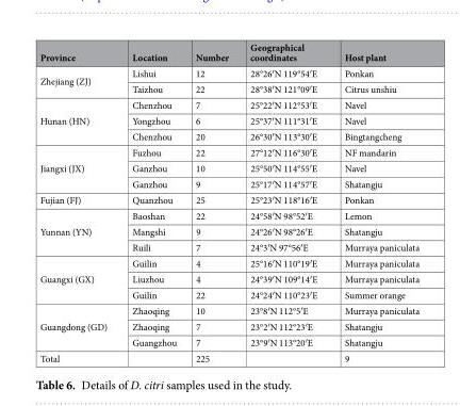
<table><thead><tr><td>Province</td><td>Location</td><td>Number</td><td>Geographical coordinates</td><td>Host plant</td></tr></thead><tbody><tr><td rowspan="2">Zhejiang (ZJ)</td><td>Lishui</td><td>12</td><td>28°26′N 119°54′E</td><td>Ponkan</td></tr><tr><td>Taizhou</td><td>22</td><td>28°38′N 121°09′E</td><td>Citrus unshiu</td></tr><tr><td rowspan="3">Hunan (HN)</td><td>Chenzhou</td><td>7</td><td>25°22′N 112°53′E</td><td>Navel</td></tr><tr><td>Yongzhou</td><td>6</td><td>25°37′N 111°31′E</td><td>Navel</td></tr><tr><td>Chenzhou</td><td>20</td><td>26°30′N 113°30′E</td><td>Bingtangcheng</td></tr><tr><td rowspan="3">Jiangxi (JX)</td><td>Fuzhou</td><td>22</td><td>27°12′N 116°30′E</td><td>NF mandarin</td></tr><tr><td>Ganzhou</td><td>10</td><td>25°50′N 114°55′E</td><td>Navel</td></tr><tr><td>Ganzhou</td><td>9</td><td>25°17′N 114°57′E</td><td>Shatangju</td></tr><tr><td>Fujian (FJ)</td><td>Quanzhou</td><td>25</td><td>25°23′N 118°16′E</td><td>Ponkan</td></tr><tr><td rowspan="3">Yunnan (YN)</td><td>Baoshan</td><td>22</td><td>24°58′N 98°52′E</td><td>Lemon</td></tr><tr><td>Mangshi</td><td>9</td><td>24°26′N 98°26′E</td><td>Shatangju</td></tr><tr><td>Ruili</td><td>7</td><td>24°3′N 97°56′E</td><td>Murraya paniculata</td></tr><tr><td rowspan="3">Guangxi (GX)</td><td>Guilin</td><td>4</td><td>25°16′N 110°19′E</td><td>Murraya paniculata</td></tr><tr><td>Liuzhou</td><td>4</td><td>24°39′N 109°14′E</td><td>Murraya paniculata</td></tr><tr><td>Guilin</td><td>22</td><td>24°24′N 110°23′E</td><td>Summer orange</td></tr><tr><td rowspan="3">Guangdong (GD)</td><td>Zhaoqing</td><td>10</td><td>23°8′N 112°5′E</td><td>Murraya paniculata</td></tr><tr><td>Zhaoqing</td><td>7</td><td>23°2′N 112°23′E</td><td>Shatangju</td></tr><tr><td>Guangzhou</td><td>7</td><td>23°9′N 113°20′E</td><td>Shatangju</td></tr><tr><td>Total</td><td></td><td>225</td><td></td><td>9</td></tr></tbody></table>